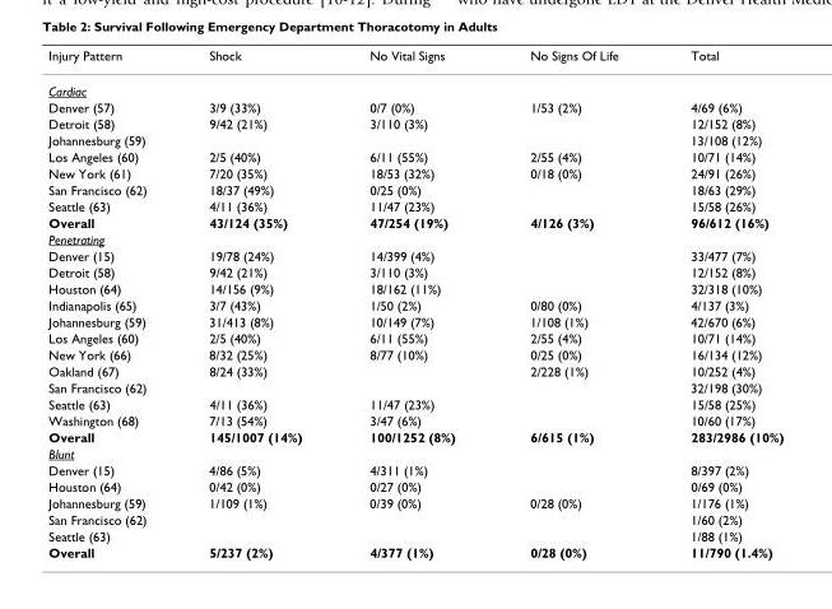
<table><thead><tr><td>Injury Pattern</td><td>Shock</td><td>No Vital Signs</td><td>No Signs Of Life</td><td>Total</td></tr></thead><tbody><tr><td colspan="5">Cardiac</td></tr><tr><td>Denver (57)</td><td>3/9 (33%)</td><td>0/7 (0%)</td><td>1/53 (2%)</td><td>4/69 (6%)</td></tr><tr><td>Detroit (58)</td><td>9/42 (21%)</td><td>3/110 (3%)</td><td></td><td>12/152 (8%)</td></tr><tr><td>Johannesburg (59)</td><td></td><td></td><td></td><td>13/108 (12%)</td></tr><tr><td>Los Angeles (60)</td><td>2/5 (40%)</td><td>6/11 (55%)</td><td>2/55 (4%)</td><td>10/71 (14%)</td></tr><tr><td>New York (61)</td><td>7/20 (35%)</td><td>18/53 (32%)</td><td>0/18 (0%)</td><td>24/91 (26%)</td></tr><tr><td>San Francisco (62)</td><td>18/37 (49%)</td><td>0/25 (0%)</td><td></td><td>18/63 (29%)</td></tr><tr><td>Seattle (63)</td><td>4/11 (36%)</td><td>11/47 (23%)</td><td></td><td>15/58 (26%)</td></tr><tr><td>Overall</td><td>43/124 (35%)</td><td>47/254 (19%)</td><td>4/126 (3%)</td><td>96/612 (16%)</td></tr><tr><td colspan="5">Penetrating</td></tr><tr><td>Denver (15)</td><td>19/78 (24%)</td><td>14/399 (4%)</td><td></td><td>33/477 (7%)</td></tr><tr><td>Detroit (58)</td><td>9/42 (21%)</td><td>3/110 (3%)</td><td></td><td>12/152 (8%)</td></tr><tr><td>Houston (64)</td><td>14/156 (9%)</td><td>18/162 (11%)</td><td></td><td>32/318 (10%)</td></tr><tr><td>Indianapolis (65)</td><td>3/7 (43%)</td><td>1/50 (2%)</td><td>0/80 (0%)</td><td>4/137 (3%)</td></tr><tr><td>Johannesburg (59)</td><td>31/413 (8%)</td><td>10/149 (7%)</td><td>1/108 (1%)</td><td>42/670 (6%)</td></tr><tr><td>Los Angeles (60)</td><td>2/5 (40%)</td><td>6/11 (55%)</td><td>2/55 (4%)</td><td>10/71 (14%)</td></tr><tr><td>New York (66)</td><td>8/32 (25%)</td><td>8/77 (10%)</td><td>0/25 (0%)</td><td>16/134 (12%)</td></tr><tr><td>Oakland (67)</td><td>8/24 (33%)</td><td></td><td>2/228 (1%)</td><td>10/252 (4%)</td></tr><tr><td>San Francisco (62)</td><td></td><td></td><td></td><td>32/198 (30%)</td></tr><tr><td>Seattle (63)</td><td>4/11 (36%)</td><td>11/47 (23%)</td><td></td><td>15/58 (25%)</td></tr><tr><td>Washington (68)</td><td>7/13 (54%)</td><td>3/47 (6%)</td><td></td><td>10/60 (17%)</td></tr><tr><td>Overall</td><td>145/1007 (14%)</td><td>100/1252 (8%)</td><td>6/615 (1%)</td><td>283/2986 (10%)</td></tr><tr><td colspan="5">Blunt</td></tr><tr><td>Denver (15)</td><td>4/86 (5%)</td><td>4/311 (1%)</td><td></td><td>8/397 (2%)</td></tr><tr><td>Houston (64)</td><td>0/42 (0%)</td><td>0/27 (0%)</td><td></td><td>0/69 (0%)</td></tr><tr><td>Johannesburg (59)</td><td>1/109 (1%)</td><td>0/39 (0%)</td><td>0/28 (0%)</td><td>1/176 (1%)</td></tr><tr><td>San Francisco (62)</td><td></td><td></td><td></td><td>1/60 (2%)</td></tr><tr><td>Seattle (63)</td><td></td><td></td><td></td><td>1/88 (1%)</td></tr><tr><td>Overall</td><td>5/237 (2%)</td><td>4/377 (1%)</td><td>0/28 (0%)</td><td>11/790 (1.4%)</td></tr></tbody></table>